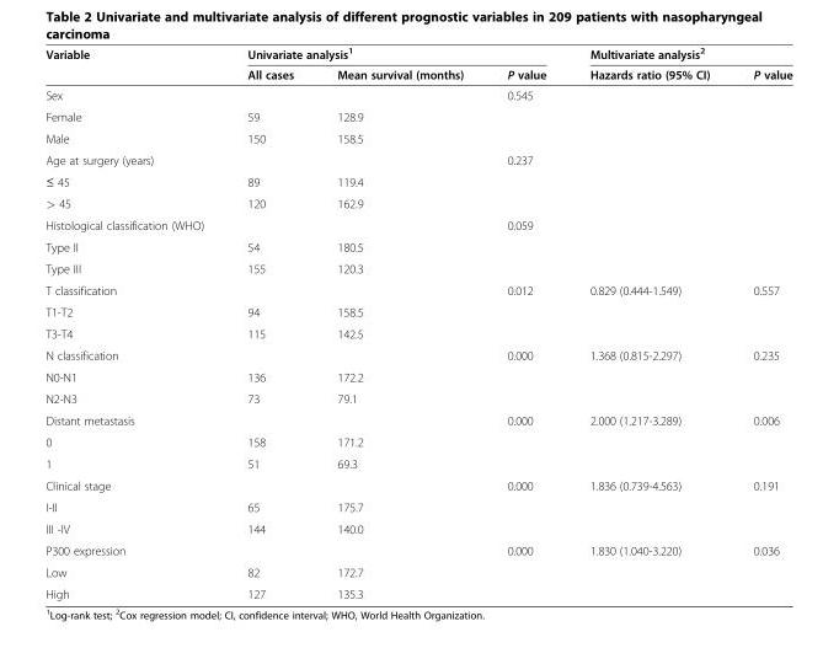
<table><thead><tr><td rowspan="2">Variable</td><td colspan="3">Univariate analysis<sup>1</sup></td><td colspan="2">Multivariate analysis<sup>2</sup></td></tr><tr><td>All cases</td><td>Mean survival (months)</td><td>P value</td><td>Hazards ratio (95% CI)</td><td>P value</td></tr></thead><tbody><tr><td>Sex</td><td></td><td></td><td>0.545</td><td></td><td></td></tr><tr><td>Female</td><td>59</td><td>128.9</td><td></td><td></td><td></td></tr><tr><td>Male</td><td>150</td><td>158.5</td><td></td><td></td><td></td></tr><tr><td>Age at surgery (years)</td><td></td><td></td><td>0.237</td><td></td><td></td></tr><tr><td>≤ 45</td><td>89</td><td>119.4</td><td></td><td></td><td></td></tr><tr><td>&gt; 45</td><td>120</td><td>162.9</td><td></td><td></td><td></td></tr><tr><td>Histological classification (WHO)</td><td></td><td></td><td>0.059</td><td></td><td></td></tr><tr><td>Type II</td><td>54</td><td>180.5</td><td></td><td></td><td></td></tr><tr><td>Type III</td><td>155</td><td>120.3</td><td></td><td></td><td></td></tr><tr><td>T classification</td><td></td><td></td><td>0.012</td><td>0.829 (0.444-1.549)</td><td>0.557</td></tr><tr><td>T1-T2</td><td>94</td><td>158.5</td><td></td><td></td><td></td></tr><tr><td>T3-T4</td><td>115</td><td>142.5</td><td></td><td></td><td></td></tr><tr><td>N classification</td><td></td><td></td><td>0.000</td><td>1.368 (0.815-2.297)</td><td>0.235</td></tr><tr><td>N0-N1</td><td>136</td><td>172.2</td><td></td><td></td><td></td></tr><tr><td>N2-N3</td><td>73</td><td>79.1</td><td></td><td></td><td></td></tr><tr><td>Distant metastasis</td><td></td><td></td><td>0.000</td><td>2.000 (1.217-3.289)</td><td>0.006</td></tr><tr><td>0</td><td>158</td><td>171.2</td><td></td><td></td><td></td></tr><tr><td>1</td><td>51</td><td>69.3</td><td></td><td></td><td></td></tr><tr><td>Clinical stage</td><td></td><td></td><td>0.000</td><td>1.836 (0.739-4.563)</td><td>0.191</td></tr><tr><td>I-II</td><td>65</td><td>175.7</td><td></td><td></td><td></td></tr><tr><td>III -IV</td><td>144</td><td>140.0</td><td></td><td></td><td></td></tr><tr><td>P300 expression</td><td></td><td></td><td>0.000</td><td>1.830 (1.040-3.220)</td><td>0.036</td></tr><tr><td>Low</td><td>82</td><td>172.7</td><td></td><td></td><td></td></tr><tr><td>High</td><td>127</td><td>135.3</td><td></td><td></td><td></td></tr></tbody></table>